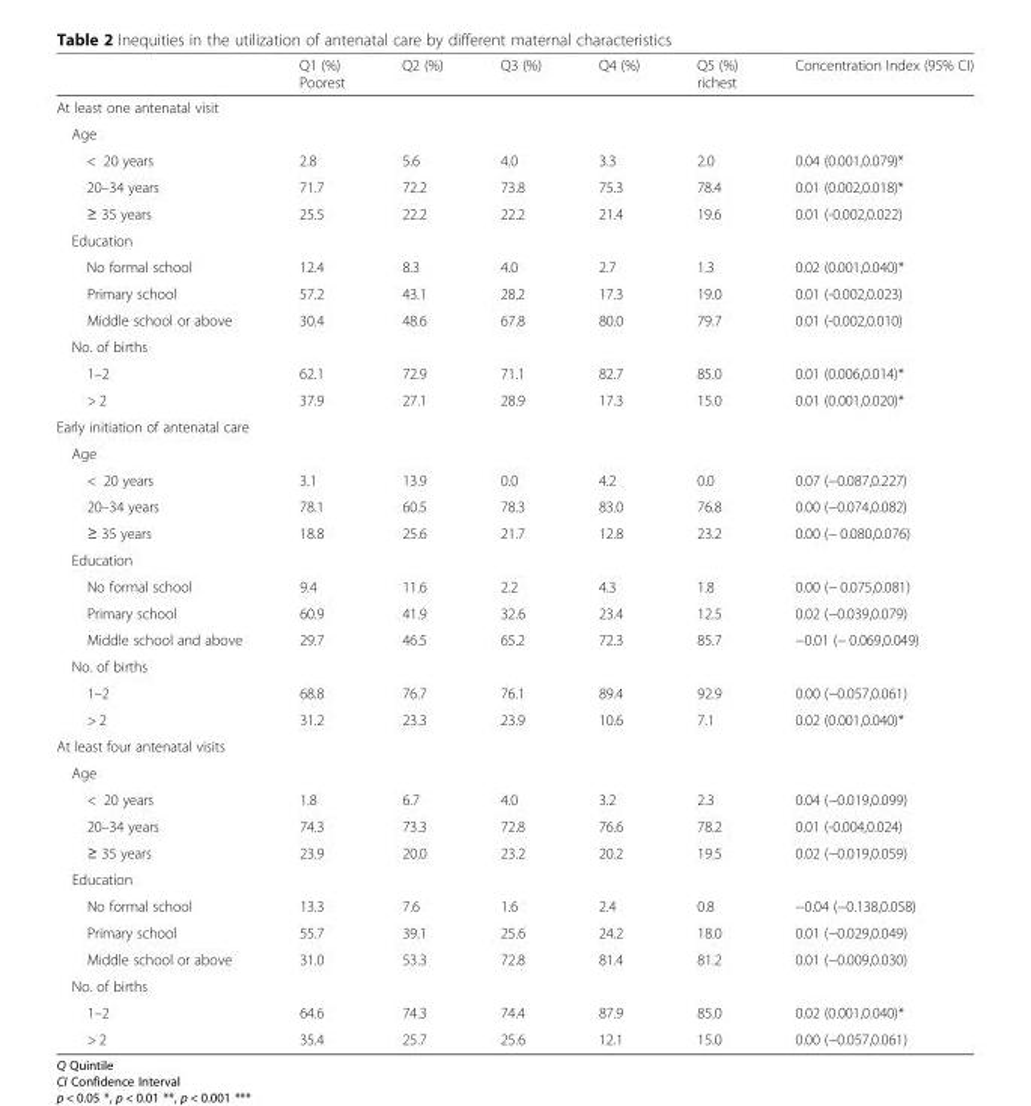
<table><thead><tr><td></td><td>Q1 (%) Poorest</td><td>Q2 (%)</td><td>Q3 (%)</td><td>Q4 (%)</td><td>Q5 (%) richest</td><td>Concentration Index (95% CI)</td></tr></thead><tbody><tr><td colspan="7">At least one antenatal visit</td></tr><tr><td colspan="7">Age</td></tr><tr><td>&lt; 20 years</td><td>2.8</td><td>5.6</td><td>4.0</td><td>3.3</td><td>2.0</td><td>0.04 (0.001,0.079)*</td></tr><tr><td>20–34 years</td><td>71.7</td><td>72.2</td><td>73.8</td><td>75.3</td><td>78.4</td><td>0.01 (0.002,0.018)*</td></tr><tr><td>≥ 35 years</td><td>25.5</td><td>22.2</td><td>22.2</td><td>21.4</td><td>19.6</td><td>0.01 (-0.002,0.022)</td></tr><tr><td colspan="7">Education</td></tr><tr><td>No formal school</td><td>12.4</td><td>8.3</td><td>4.0</td><td>2.7</td><td>1.3</td><td>0.02 (0.001,0.040)*</td></tr><tr><td>Primary school</td><td>57.2</td><td>43.1</td><td>28.2</td><td>17.3</td><td>19.0</td><td>0.01 (-0.002,0.023)</td></tr><tr><td>Middle school or above</td><td>30.4</td><td>48.6</td><td>67.8</td><td>80.0</td><td>79.7</td><td>0.01 (-0.002,0.010)</td></tr><tr><td colspan="7">No. of births</td></tr><tr><td>1–2</td><td>62.1</td><td>72.9</td><td>71.1</td><td>82.7</td><td>85.0</td><td>0.01 (0.006,0.014)*</td></tr><tr><td>&gt; 2</td><td>37.9</td><td>27.1</td><td>28.9</td><td>17.3</td><td>15.0</td><td>0.01 (0.001,0.020)*</td></tr><tr><td colspan="7">Early initiation of antenatal care</td></tr><tr><td colspan="7">Age</td></tr><tr><td>&lt; 20 years</td><td>3.1</td><td>13.9</td><td>0.0</td><td>4.2</td><td>0.0</td><td>0.07 (−0.087,0.227)</td></tr><tr><td>20–34 years</td><td>78.1</td><td>60.5</td><td>78.3</td><td>83.0</td><td>76.8</td><td>0.00 (−0.074,0.082)</td></tr><tr><td>≥ 35 years</td><td>18.8</td><td>25.6</td><td>21.7</td><td>12.8</td><td>23.2</td><td>0.00 (− 0.080,0.076)</td></tr><tr><td colspan="7">Education</td></tr><tr><td>No formal school</td><td>9.4</td><td>11.6</td><td>2.2</td><td>4.3</td><td>1.8</td><td>0.00 (− 0.075,0.081)</td></tr><tr><td>Primary school</td><td>60.9</td><td>41.9</td><td>32.6</td><td>23.4</td><td>12.5</td><td>0.02 (−0.039,0.079)</td></tr><tr><td>Middle school and above</td><td>29.7</td><td>46.5</td><td>65.2</td><td>72.3</td><td>85.7</td><td>−0.01 (− 0.069,0.049)</td></tr><tr><td colspan="7">No. of births</td></tr><tr><td>1–2</td><td>68.8</td><td>76.7</td><td>76.1</td><td>89.4</td><td>92.9</td><td>0.00 (−0.057,0.061)</td></tr><tr><td>&gt; 2</td><td>31.2</td><td>23.3</td><td>23.9</td><td>10.6</td><td>7.1</td><td>0.02 (0.001,0.040)*</td></tr><tr><td colspan="7">At least four antenatal visits</td></tr><tr><td colspan="7">Age</td></tr><tr><td>&lt; 20 years</td><td>1.8</td><td>6.7</td><td>4.0</td><td>3.2</td><td>2.3</td><td>0.04 (−0.019,0.099)</td></tr><tr><td>20–34 years</td><td>74.3</td><td>73.3</td><td>72.8</td><td>76.6</td><td>78.2</td><td>0.01 (-0.004,0.024)</td></tr><tr><td>≥ 35 years</td><td>23.9</td><td>20.0</td><td>23.2</td><td>20.2</td><td>19.5</td><td>0.02 (−0.019,0.059)</td></tr><tr><td colspan="7">Education</td></tr><tr><td>No formal school</td><td>13.3</td><td>7.6</td><td>1.6</td><td>2.4</td><td>0.8</td><td>−0.04 (−0.138,0.058)</td></tr><tr><td>Primary school</td><td>55.7</td><td>39.1</td><td>25.6</td><td>24.2</td><td>18.0</td><td>0.01 (−0.029,0.049)</td></tr><tr><td>Middle school or above</td><td>31.0</td><td>53.3</td><td>72.8</td><td>81.4</td><td>81.2</td><td>0.01 (−0.009,0.030)</td></tr><tr><td colspan="7">No. of births</td></tr><tr><td>1–2</td><td>64.6</td><td>74.3</td><td>74.4</td><td>87.9</td><td>85.0</td><td>0.02 (0.001,0.040)*</td></tr><tr><td>&gt; 2</td><td>35.4</td><td>25.7</td><td>25.6</td><td>12.1</td><td>15.0</td><td>0.00 (−0.057,0.061)</td></tr></tbody></table>